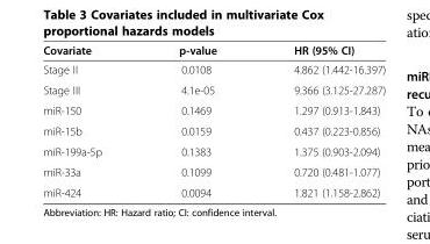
<table><thead><tr><td>Covariate</td><td>p-value</td><td>HR (95% CI)</td></tr></thead><tbody><tr><td>Stage II</td><td>0.0108</td><td>4.862 (1.442-16.397)</td></tr><tr><td>Stage III</td><td>4.1e-05</td><td>9.366 (3.125-27.287)</td></tr><tr><td>miR-150</td><td>0.1469</td><td>1.297 (0.913-1.843)</td></tr><tr><td>miR-15b</td><td>0.0159</td><td>0.437 (0.223-0.856)</td></tr><tr><td>miR-199a-5p</td><td>0.1383</td><td>1.375 (0.903-2.094)</td></tr><tr><td>miR-33a</td><td>0.1099</td><td>0.720 (0.481-1.077)</td></tr><tr><td>miR-424</td><td>0.0094</td><td>1.821 (1.158-2.862)</td></tr></tbody></table>